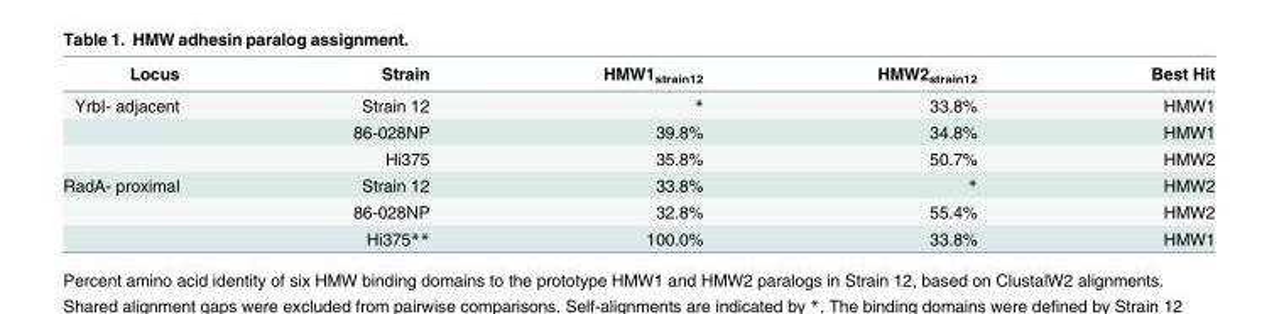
<table><thead><tr><td>Locus</td><td>Strain</td><td>HMW1<sub>strain12</sub></td><td>HMW2<sub>strain12</sub></td><td>Best Hit</td></tr></thead><tbody><tr><td rowspan="3">YrbI- adjacent</td><td>Strain 12</td><td>*</td><td>33.8%</td><td>HMW1</td></tr><tr><td>86-028NP</td><td>39.8%</td><td>34.8%</td><td>HMW1</td></tr><tr><td>Hi375</td><td>35.8%</td><td>50.7%</td><td>HMW2</td></tr><tr><td rowspan="3">RadA- proximal</td><td>Strain 12</td><td>33.8%</td><td>*</td><td>HMW2</td></tr><tr><td>86-028NP</td><td>32.8%</td><td>55.4%</td><td>HMW2</td></tr><tr><td>Hi375**</td><td>100.0%</td><td>33.8%</td><td>HMW1</td></tr></tbody></table>